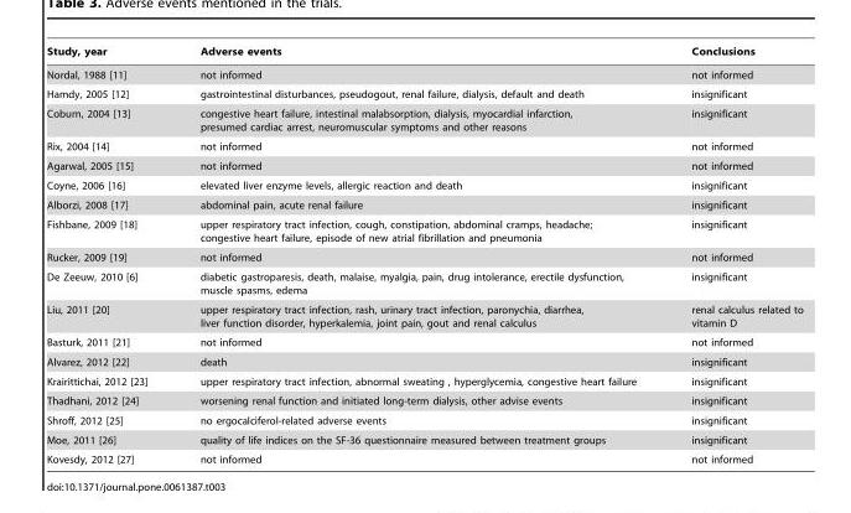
<table><thead><tr><td>Study, year</td><td>Adverse events</td><td>Conclusions</td></tr></thead><tbody><tr><td>Nordal, 1988 [11]</td><td>not informed</td><td>not informed</td></tr><tr><td>Hamdy, 2005 [12]</td><td>gastrointestinal disturbances, pseudogout, renal failure, dialysis, default and death</td><td>insignificant</td></tr><tr><td>Coburn, 2004 [13]</td><td>congestive heart failure, intestinal malabsorption, dialysis, myocardial infarction, presumed cardiac arrest, neuromuscular symptoms and other reasons</td><td>insignificant</td></tr><tr><td>Rix, 2004 [14]</td><td>not informed</td><td>not informed</td></tr><tr><td>Agarwal, 2005 [15]</td><td>not informed</td><td>not informed</td></tr><tr><td>Coyne, 2006 [16]</td><td>elevated liver enzyme levels, allergic reaction and death</td><td>insignificant</td></tr><tr><td>Alborzi, 2008 [17]</td><td>abdominal pain, acute renal failure</td><td>insignificant</td></tr><tr><td>Fishbane, 2009 [18]</td><td>upper respiratory tract infection, cough, constipation, abdominal cramps, headache; congestive heart failure, episode of new atrial fibrillation and pneumonia</td><td>insignificant</td></tr><tr><td>Rucker, 2009 [19]</td><td>not informed</td><td>not informed</td></tr><tr><td>De Zeeuw, 2010 [6]</td><td>diabetic gastroparesis, death, malaise, myalgia, pain, drug intolerance, erectile dysfunction, muscle spasms, edema</td><td>insignificant</td></tr><tr><td>Liu, 2011 [20]</td><td>upper respiratory tract infection, rash, urinary tract infection, paronychia, diarrhea, liver function disorder, hyperkalemia, joint pain, gout and renal calculus</td><td>renal calculus related to vitamin D</td></tr><tr><td>Basturk, 2011 [21]</td><td>not informed</td><td>not informed</td></tr><tr><td>Alvarez, 2012 [22]</td><td>death</td><td>insignificant</td></tr><tr><td>Krairittichai, 2012 [23]</td><td>upper respiratory tract infection, abnormal sweating , hyperglycemia, congestive heart failure</td><td>insignificant</td></tr><tr><td>Thadhani, 2012 [24]</td><td>worsening renal function and initiated long-term dialysis, other advise events</td><td>insignificant</td></tr><tr><td>Shroff, 2012 [25]</td><td>no ergocalciferol-related adverse events</td><td>insignificant</td></tr><tr><td>Moe, 2011 [26]</td><td>quality of life indices on the SF-36 questionnaire measured between treatment groups</td><td>insignificant</td></tr><tr><td>Kovesdy, 2012 [27]</td><td>not informed</td><td>not informed</td></tr></tbody></table>